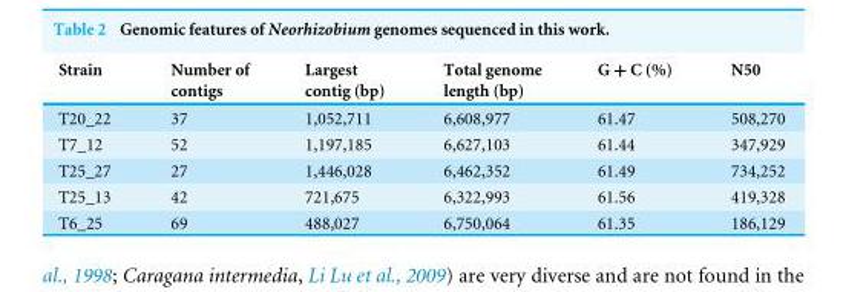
<table><thead><tr><td>Strain</td><td>Number of contigs</td><td>Largest contig (bp)</td><td>Total genome length (bp)</td><td>G + C (%)</td><td>N50</td></tr></thead><tbody><tr><td>T20_22</td><td>37</td><td>1,052,711</td><td>6,608,977</td><td>61.47</td><td>508,270</td></tr><tr><td>T7_12</td><td>52</td><td>1,197,185</td><td>6,627,103</td><td>61.44</td><td>347,929</td></tr><tr><td>T25_27</td><td>27</td><td>1,446,028</td><td>6,462,352</td><td>61.49</td><td>734,252</td></tr><tr><td>T25_13</td><td>42</td><td>721,675</td><td>6,322,993</td><td>61.56</td><td>419,328</td></tr><tr><td>T6_25</td><td>69</td><td>488,027</td><td>6,750,064</td><td>61.35</td><td>186,129</td></tr></tbody></table>